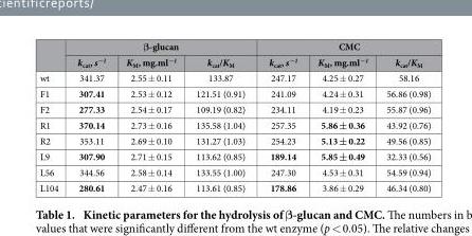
<table><thead><tr><td rowspan="2"></td><td colspan="3">β-glucan</td><td colspan="3">CMC</td></tr><tr><td>k<sub>cat</sub>, s<sup>−1</sup></td><td>K<sub>M</sub>, mg.ml<sup>−1</sup></td><td>k<sub>cat</sub>/K<sub>M</sub></td><td>k<sub>cat</sub>, s<sup>−1</sup></td><td>K<sub>M</sub>, mg.ml<sup>−1</sup></td><td>k<sub>cat</sub>/K<sub>M</sub></td></tr></thead><tbody><tr><td>wt</td><td>341.37</td><td>2.55 ± 0.11</td><td>133.87</td><td>247.17</td><td>4.25 ± 0.27</td><td>58.16</td></tr><tr><td>F1</td><td>307.41</td><td>2.53 ± 0.12</td><td>121.51 (0.91)</td><td>241.09</td><td>4.24 ± 0.31</td><td>56.86 (0.98)</td></tr><tr><td>F2</td><td>277.33</td><td>2.54 ± 0.17</td><td>109.19 (0.82)</td><td>234.11</td><td>4.19 ± 0.23</td><td>55.87 (0.96)</td></tr><tr><td>R1</td><td>370.14</td><td>2.73 ± 0.16</td><td>135.58 (1.04)</td><td>257.35</td><td>5.86 ± 0.36</td><td>43.92 (0.76)</td></tr><tr><td>R2</td><td>353.11</td><td>2.69 ± 0.10</td><td>131.27 (1.03)</td><td>254.23</td><td>5.13 ± 0.22</td><td>49.56 (0.85)</td></tr><tr><td>L9</td><td>307.90</td><td>2.71 ± 0.15</td><td>113.62 (0.85)</td><td>189.14</td><td>5.85 ± 0.49</td><td>32.33 (0.56)</td></tr><tr><td>L56</td><td>344.56</td><td>2.58 ± 0.14</td><td>133.55 (1.00)</td><td>247.30</td><td>4.53 ± 0.31</td><td>54.59 (0.94)</td></tr><tr><td>L104</td><td>280.61</td><td>2.47 ± 0.16</td><td>113.61 (0.85)</td><td>178.86</td><td>3.86 ± 0.29</td><td>46.34 (0.80)</td></tr></tbody></table>